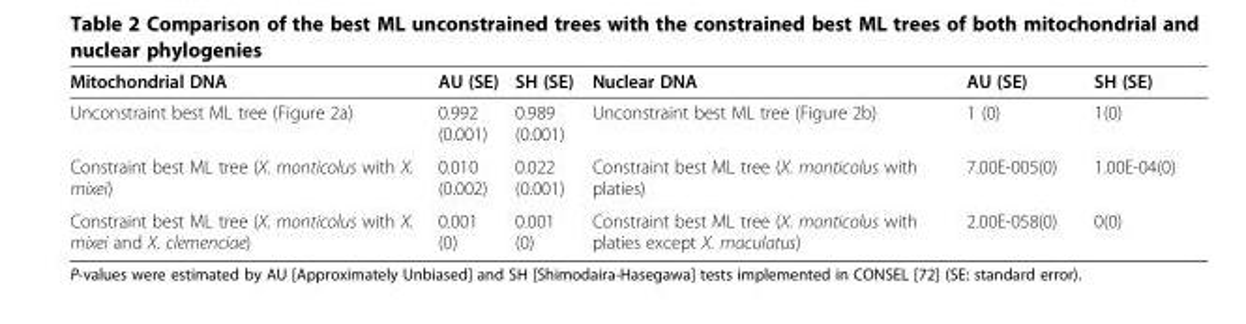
<table><thead><tr><td>Mitochondrial DNA</td><td>AU (SE)</td><td>SH (SE)</td><td>Nuclear DNA</td><td>AU (SE)</td><td>SH (SE)</td></tr></thead><tbody><tr><td>Unconstraint best ML tree (Figure 2a)</td><td>0.992 (0.001)</td><td>0.989 (0.001)</td><td>Unconstraint best ML tree (Figure 2b)</td><td>1 (0)</td><td>1(0)</td></tr><tr><td>Constraint best ML tree (X. monticolus with X. mixei)</td><td>0.010 (0.002)</td><td>0.022 (0.001)</td><td>Constraint best ML tree (X. monticolus with platies)</td><td>7.00E-005(0)</td><td>1.00E-04(0)</td></tr><tr><td>Constraint best ML tree (X. monticolus with X. mixei and X. clemenciae)</td><td>0.001 (0)</td><td>0.001 (0)</td><td>Constraint best ML tree (X. monticolus with platies except X. maculatus)</td><td>2.00E-058(0)</td><td>0(0)</td></tr></tbody></table>